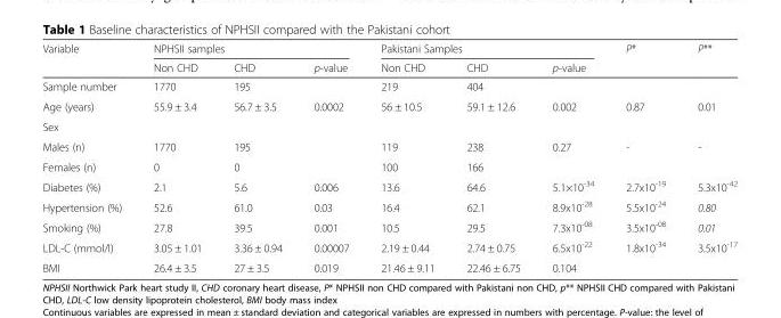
<table><thead><tr><td rowspan="2">Variable</td><td colspan="3">NPHSII samples</td><td colspan="3">Pakistani Samples</td><td rowspan="2">P*</td><td rowspan="2">P**</td></tr><tr><td>Non CHD</td><td>CHD</td><td>p-value</td><td>Non CHD</td><td>CHD</td><td>p-value</td></tr></thead><tbody><tr><td>Sample number</td><td>1770</td><td>195</td><td></td><td>219</td><td>404</td><td></td><td></td><td></td></tr><tr><td>Age (years)</td><td>55.9 ± 3.4</td><td>56.7 ± 3.5</td><td>0.0002</td><td>56 ± 10.5</td><td>59.1 ± 12.6</td><td>0.002</td><td>0.87</td><td>0.01</td></tr><tr><td colspan="9">Sex</td></tr><tr><td>Males (n)</td><td>1770</td><td>195</td><td></td><td>119</td><td>238</td><td>0.27</td><td>-</td><td>-</td></tr><tr><td>Females (n)</td><td>0</td><td>0</td><td></td><td>100</td><td>166</td><td></td><td></td><td></td></tr><tr><td>Diabetes (%)</td><td>2.1</td><td>5.6</td><td>0.006</td><td>13.6</td><td>64.6</td><td>5.1×10<sup>-34</sup></td><td>2.7x10<sup>-19</sup></td><td>5.3x10<sup>-42</sup></td></tr><tr><td>Hypertension (%)</td><td>52.6</td><td>61.0</td><td>0.03</td><td>16.4</td><td>62.1</td><td>8.9x10<sup>-28</sup></td><td>5.5x10<sup>-24</sup></td><td>0.80</td></tr><tr><td>Smoking (%)</td><td>27.8</td><td>39.5</td><td>0.001</td><td>10.5</td><td>29.5</td><td>7.3x10<sup>-08</sup></td><td>3.5x10<sup>-08</sup></td><td>0.01</td></tr><tr><td>LDL-C (mmol/l)</td><td>3.05 ± 1.01</td><td>3.36 ± 0.94</td><td>0.00007</td><td>2.19 ± 0.44</td><td>2.74 ± 0.75</td><td>6.5x10<sup>-22</sup></td><td>1.8x10<sup>-34</sup></td><td>3.5x10<sup>-17</sup></td></tr><tr><td>BMI</td><td>26.4 ± 3.5</td><td>27 ± 3.5</td><td>0.019</td><td>21.46 ± 9.11</td><td>22.46 ± 6.75</td><td>0.104</td><td></td><td></td></tr></tbody></table>